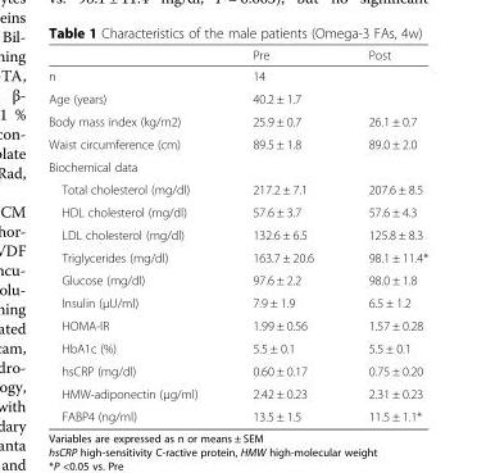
<table><thead><tr><td></td><td>Pre</td><td>Post</td></tr></thead><tbody><tr><td>n</td><td colspan="2">14</td></tr><tr><td>Age (years)</td><td colspan="2">40.2 ± 1.7</td></tr><tr><td>Body mass index (kg/m2)</td><td>25.9 ± 0.7</td><td>26.1 ± 0.7</td></tr><tr><td>Waist circumference (cm)</td><td>89.5 ± 1.8</td><td>89.0 ± 2.0</td></tr><tr><td colspan="3">Biochemical data</td></tr><tr><td>Total cholesterol (mg/dl)</td><td>217.2 ± 7.1</td><td>207.6 ± 8.5</td></tr><tr><td>HDL cholesterol (mg/dl)</td><td>57.6 ± 3.7</td><td>57.6 ± 4.3</td></tr><tr><td>LDL cholesterol (mg/dl)</td><td>132.6 ± 6.5</td><td>125.8 ± 8.3</td></tr><tr><td>Triglycerides (mg/dl)</td><td>163.7 ± 20.6</td><td>98.1 ± 11.4*</td></tr><tr><td>Glucose (mg/dl)</td><td>97.6 ± 2.2</td><td>98.0 ± 1.8</td></tr><tr><td>Insulin (μU/ml)</td><td>7.9 ± 1.9</td><td>6.5 ± 1.2</td></tr><tr><td>HOMA-IR</td><td>1.99 ± 0.56</td><td>1.57 ± 0.28</td></tr><tr><td>HbA1c (%)</td><td>5.5 ± 0.1</td><td>5.5 ± 0.1</td></tr><tr><td>hsCRP (mg/dl)</td><td>0.60 ± 0.17</td><td>0.75 ± 0.20</td></tr><tr><td>HMW-adiponectin (μg/ml)</td><td>2.42 ± 0.23</td><td>2.31 ± 0.23</td></tr><tr><td>FABP4 (ng/ml)</td><td>13.5 ± 1.5</td><td>11.5 ± 1.1*</td></tr></tbody></table>